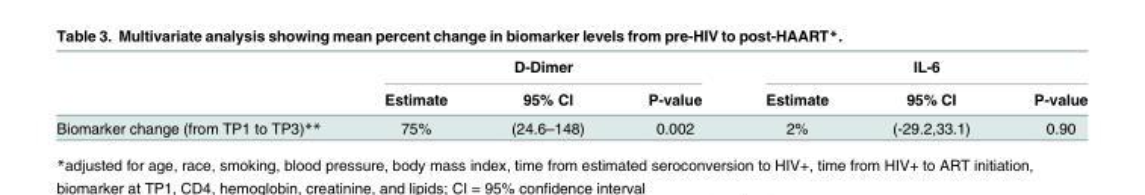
<table><thead><tr><td rowspan="2"></td><td colspan="3">D-Dimer</td><td colspan="3">IL-6</td></tr><tr><td>Estimate</td><td>95% CI</td><td>P-value</td><td>Estimate</td><td>95% CI</td><td>P-value</td></tr></thead><tbody><tr><td>Biomarker change (from TP1 to TP3)**</td><td>75%</td><td>(24.6–148)</td><td>0.002</td><td>2%</td><td>(-29.2,33.1)</td><td>0.90</td></tr></tbody></table>